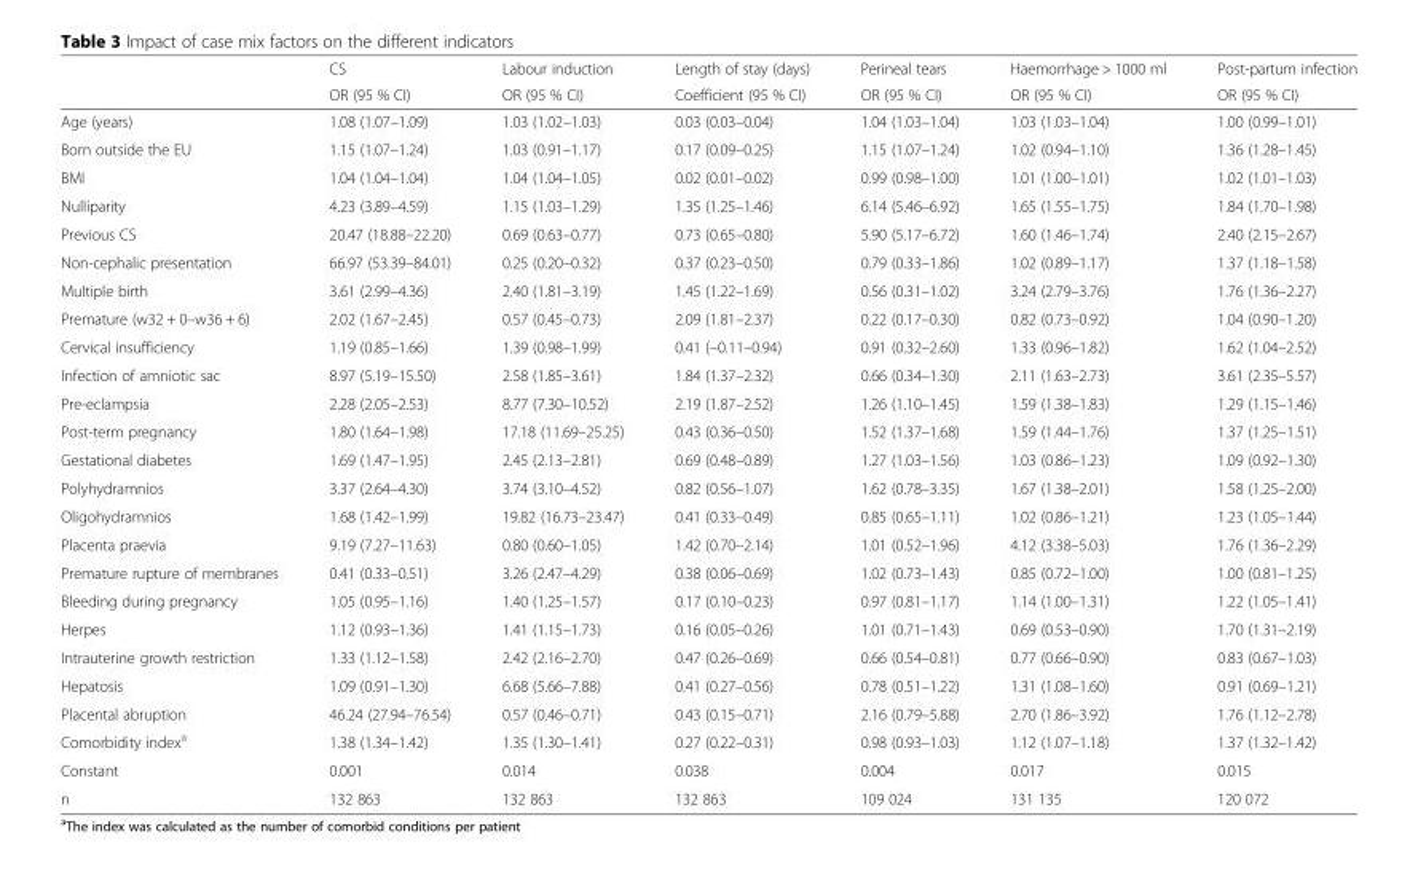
<table><thead><tr><td rowspan="2"></td><td rowspan="2">CS OR (95 % CI)</td><td rowspan="2">Labour induction OR (95 % CI)</td><td rowspan="2">Length of stay (days) Coefficient (95 % CI)</td><td rowspan="2">Perineal tears OR (95 % CI)</td><td rowspan="2">Haemorrhage &gt; 1000 ml OR (95 % CI)</td><td rowspan="2">Post-partum infection OR (95 % CI)</td></tr><tr></tr></thead><tbody><tr><td>Age (years)</td><td>1.08 (1.07–1.09)</td><td>1.03 (1.02–1.03)</td><td>0.03 (0.03–0.04)</td><td>1.04 (1.03–1.04)</td><td>1.03 (1.03–1.04)</td><td>1.00 (0.99–1.01)</td></tr><tr><td>Born outside the EU</td><td>1.15 (1.07–1.24)</td><td>1.03 (0.91–1.17)</td><td>0.17 (0.09–0.25)</td><td>1.15 (1.07–1.24)</td><td>1.02 (0.94–1.10)</td><td>1.36 (1.28–1.45)</td></tr><tr><td>BMI</td><td>1.04 (1.04–1.04)</td><td>1.04 (1.04–1.05)</td><td>0.02 (0.01–0.02)</td><td>0.99 (0.98–1.00)</td><td>1.01 (1.00–1.01)</td><td>1.02 (1.01–1.03)</td></tr><tr><td>Nulliparity</td><td>4.23 (3.89–4.59)</td><td>1.15 (1.03–1.29)</td><td>1.35 (1.25–1.46)</td><td>6.14 (5.46–6.92)</td><td>1.65 (1.55–1.75)</td><td>1.84 (1.70–1.98)</td></tr><tr><td>Previous CS</td><td>20.47 (18.88–22.20)</td><td>0.69 (0.63–0.77)</td><td>0.73 (0.65–0.80)</td><td>5.90 (5.17–6.72)</td><td>1.60 (1.46–1.74)</td><td>2.40 (2.15–2.67)</td></tr><tr><td>Non-cephalic presentation</td><td>66.97 (53.39–84.01)</td><td>0.25 (0.20–0.32)</td><td>0.37 (0.23–0.50)</td><td>0.79 (0.33–1.86)</td><td>1.02 (0.89–1.17)</td><td>1.37 (1.18–1.58)</td></tr><tr><td>Multiple birth</td><td>3.61 (2.99–4.36)</td><td>2.40 (1.81–3.19)</td><td>1.45 (1.22–1.69)</td><td>0.56 (0.31–1.02)</td><td>3.24 (2.79–3.76)</td><td>1.76 (1.36–2.27)</td></tr><tr><td>Premature (w32 + 0–w36 + 6)</td><td>2.02 (1.67–2.45)</td><td>0.57 (0.45–0.73)</td><td>2.09 (1.81–2.37)</td><td>0.22 (0.17–0.30)</td><td>0.82 (0.73–0.92)</td><td>1.04 (0.90–1.20)</td></tr><tr><td>Cervical insufficiency</td><td>1.19 (0.85–1.66)</td><td>1.39 (0.98–1.99)</td><td>0.41 (–0.11–0.94)</td><td>0.91 (0.32–2.60)</td><td>1.33 (0.96–1.82)</td><td>1.62 (1.04–2.52)</td></tr><tr><td>Infection of amniotic sac</td><td>8.97 (5.19–15.50)</td><td>2.58 (1.85–3.61)</td><td>1.84 (1.37–2.32)</td><td>0.66 (0.34–1.30)</td><td>2.11 (1.63–2.73)</td><td>3.61 (2.35–5.57)</td></tr><tr><td>Pre-eclampsia</td><td>2.28 (2.05–2.53)</td><td>8.77 (7.30–10.52)</td><td>2.19 (1.87–2.52)</td><td>1.26 (1.10–1.45)</td><td>1.59 (1.38–1.83)</td><td>1.29 (1.15–1.46)</td></tr><tr><td>Post-term pregnancy</td><td>1.80 (1.64–1.98)</td><td>17.18 (11.69–25.25)</td><td>0.43 (0.36–0.50)</td><td>1.52 (1.37–1.68)</td><td>1.59 (1.44–1.76)</td><td>1.37 (1.25–1.51)</td></tr><tr><td>Gestational diabetes</td><td>1.69 (1.47–1.95)</td><td>2.45 (2.13–2.81)</td><td>0.69 (0.48–0.89)</td><td>1.27 (1.03–1.56)</td><td>1.03 (0.86–1.23)</td><td>1.09 (0.92–1.30)</td></tr><tr><td>Polyhydramnios</td><td>3.37 (2.64–4.30)</td><td>3.74 (3.10–4.52)</td><td>0.82 (0.56–1.07)</td><td>1.62 (0.78–3.35)</td><td>1.67 (1.38–2.01)</td><td>1.58 (1.25–2.00)</td></tr><tr><td>Oligohydramnios</td><td>1.68 (1.42–1.99)</td><td>19.82 (16.73–23.47)</td><td>0.41 (0.33–0.49)</td><td>0.85 (0.65–1.11)</td><td>1.02 (0.86–1.21)</td><td>1.23 (1.05–1.44)</td></tr><tr><td>Placenta praevia</td><td>9.19 (7.27–11.63)</td><td>0.80 (0.60–1.05)</td><td>1.42 (0.70–2.14)</td><td>1.01 (0.52–1.96)</td><td>4.12 (3.38–5.03)</td><td>1.76 (1.36–2.29)</td></tr><tr><td>Premature rupture of membranes</td><td>0.41 (0.33–0.51)</td><td>3.26 (2.47–4.29)</td><td>0.38 (0.06–0.69)</td><td>1.02 (0.73–1.43)</td><td>0.85 (0.72–1.00)</td><td>1.00 (0.81–1.25)</td></tr><tr><td>Bleeding during pregnancy</td><td>1.05 (0.95–1.16)</td><td>1.40 (1.25–1.57)</td><td>0.17 (0.10–0.23)</td><td>0.97 (0.81–1.17)</td><td>1.14 (1.00–1.31)</td><td>1.22 (1.05–1.41)</td></tr><tr><td>Herpes</td><td>1.12 (0.93–1.36)</td><td>1.41 (1.15–1.73)</td><td>0.16 (0.05–0.26)</td><td>1.01 (0.71–1.43)</td><td>0.69 (0.53–0.90)</td><td>1.70 (1.31–2.19)</td></tr><tr><td>Intrauterine growth restriction</td><td>1.33 (1.12–1.58)</td><td>2.42 (2.16–2.70)</td><td>0.47 (0.26–0.69)</td><td>0.66 (0.54–0.81)</td><td>0.77 (0.66–0.90)</td><td>0.83 (0.67–1.03)</td></tr><tr><td>Hepatosis</td><td>1.09 (0.91–1.30)</td><td>6.68 (5.66–7.88)</td><td>0.41 (0.27–0.56)</td><td>0.78 (0.51–1.22)</td><td>1.31 (1.08–1.60)</td><td>0.91 (0.69–1.21)</td></tr><tr><td>Placental abruption</td><td>46.24 (27.94–76.54)</td><td>0.57 (0.46–0.71)</td><td>0.43 (0.15–0.71)</td><td>2.16 (0.79–5.88)</td><td>2.70 (1.86–3.92)</td><td>1.76 (1.12–2.78)</td></tr><tr><td>Comorbidity index<sup>a</sup></td><td>1.38 (1.34–1.42)</td><td>1.35 (1.30–1.41)</td><td>0.27 (0.22–0.31)</td><td>0.98 (0.93–1.03)</td><td>1.12 (1.07–1.18)</td><td>1.37 (1.32–1.42)</td></tr><tr><td>Constant</td><td>0.001</td><td>0.014</td><td>0.038</td><td>0.004</td><td>0.017</td><td>0.015</td></tr><tr><td>n</td><td>132 863</td><td>132 863</td><td>132 863</td><td>109 024</td><td>131 135</td><td>120 072</td></tr></tbody></table>